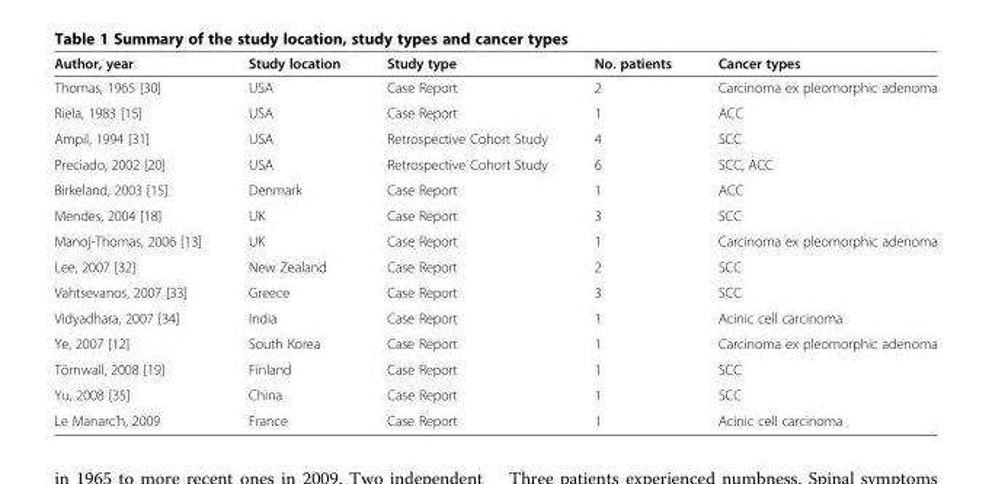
<table><thead><tr><td>Author, year</td><td>Study location</td><td>Study type</td><td>No. patients</td><td>Cancer types</td></tr></thead><tbody><tr><td>Thomas, 1965 [30]</td><td>USA</td><td>Case Report</td><td>2</td><td>Carcinoma ex pleomorphic adenoma</td></tr><tr><td>Riela, 1983 [15]</td><td>USA</td><td>Case Report</td><td>1</td><td>ACC</td></tr><tr><td>Ampil, 1994 [31]</td><td>USA</td><td>Retrospective Cohort Study</td><td>4</td><td>SCC</td></tr><tr><td>Preciado, 2002 [20]</td><td>USA</td><td>Retrospective Cohort Study</td><td>6</td><td>SCC, ACC</td></tr><tr><td>Birkeland, 2003 [15]</td><td>Denmark</td><td>Case Report</td><td>1</td><td>ACC</td></tr><tr><td>Mendes, 2004 [18]</td><td>UK</td><td>Case Report</td><td>3</td><td>SCC</td></tr><tr><td>Manoj-Thomas, 2006 [13]</td><td>UK</td><td>Case Report</td><td>1</td><td>Carcinoma ex pleomorphic adenoma</td></tr><tr><td>Lee, 2007 [32]</td><td>New Zealand</td><td>Case Report</td><td>2</td><td>SCC</td></tr><tr><td>Vahtsevanos, 2007 [33]</td><td>Greece</td><td>Case Report</td><td>3</td><td>SCC</td></tr><tr><td>Vidyadhara, 2007 [34]</td><td>India</td><td>Case Report</td><td>1</td><td>Acinic cell carcinoma</td></tr><tr><td>Ye, 2007 [12]</td><td>South Korea</td><td>Case Report</td><td>1</td><td>Carcinoma ex pleomorphic adenoma</td></tr><tr><td>Törnwall, 2008 [19]</td><td>Finland</td><td>Case Report</td><td>1</td><td>SCC</td></tr><tr><td>Yu, 2008 [35]</td><td>China</td><td>Case Report</td><td>1</td><td>SCC</td></tr><tr><td>Le Manarc’h, 2009</td><td>France</td><td>Case Report</td><td>1</td><td>Acinic cell carcinoma</td></tr></tbody></table>